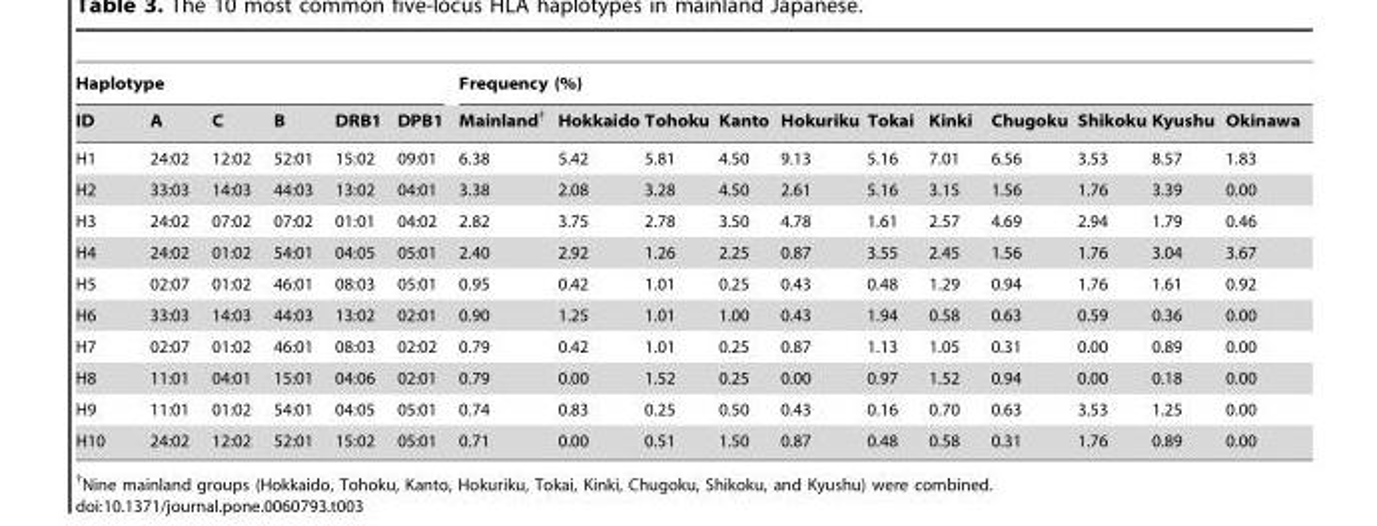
<table><thead><tr><td colspan="6">Haplotype</td><td colspan="11">Frequency (%)</td></tr><tr><td>ID</td><td>A</td><td>C</td><td>B</td><td>DRB1</td><td>DPB1</td><td>Mainland†</td><td>Hokkaido</td><td>Tohoku</td><td>Kanto</td><td>Hokuriku</td><td>Tokai</td><td>Kinki</td><td>Chugoku</td><td>Shikoku</td><td>Kyushu</td><td>Okinawa</td></tr></thead><tbody><tr><td>H1</td><td>24:02</td><td>12:02</td><td>52:01</td><td>15:02</td><td>09:01</td><td>6.38</td><td>5.42</td><td>5.81</td><td>4.50</td><td>9.13</td><td>5.16</td><td>7.01</td><td>6.56</td><td>3.53</td><td>8.57</td><td>1.83</td></tr><tr><td>H2</td><td>33:03</td><td>14:03</td><td>44:03</td><td>13:02</td><td>04:01</td><td>3.38</td><td>2.08</td><td>3.28</td><td>4.50</td><td>2.61</td><td>5.16</td><td>3.15</td><td>1.56</td><td>1.76</td><td>3.39</td><td>0.00</td></tr><tr><td>H3</td><td>24:02</td><td>07:02</td><td>07:02</td><td>01:01</td><td>04:02</td><td>2.82</td><td>3.75</td><td>2.78</td><td>3.50</td><td>4.78</td><td>1.61</td><td>2.57</td><td>4.69</td><td>2.94</td><td>1.79</td><td>0.46</td></tr><tr><td>H4</td><td>24:02</td><td>01:02</td><td>54:01</td><td>04:05</td><td>05:01</td><td>2.40</td><td>2.92</td><td>1.26</td><td>2.25</td><td>0.87</td><td>3.55</td><td>2.45</td><td>1.56</td><td>1.76</td><td>3.04</td><td>3.67</td></tr><tr><td>H5</td><td>02:07</td><td>01:02</td><td>46:01</td><td>08:03</td><td>05:01</td><td>0.95</td><td>0.42</td><td>1.01</td><td>0.25</td><td>0.43</td><td>0.48</td><td>1.29</td><td>0.94</td><td>1.76</td><td>1.61</td><td>0.92</td></tr><tr><td>H6</td><td>33:03</td><td>14:03</td><td>44:03</td><td>13:02</td><td>02:01</td><td>0.90</td><td>1.25</td><td>1.01</td><td>1.00</td><td>0.43</td><td>1.94</td><td>0.58</td><td>0.63</td><td>0.59</td><td>0.36</td><td>0.00</td></tr><tr><td>H7</td><td>02:07</td><td>01:02</td><td>46:01</td><td>08:03</td><td>02:02</td><td>0.79</td><td>0.42</td><td>1.01</td><td>0.25</td><td>0.87</td><td>1.13</td><td>1.05</td><td>0.31</td><td>0.00</td><td>0.89</td><td>0.00</td></tr><tr><td>H8</td><td>11:01</td><td>04:01</td><td>15:01</td><td>04:06</td><td>02:01</td><td>0.79</td><td>0.00</td><td>1.52</td><td>0.25</td><td>0.00</td><td>0.97</td><td>1.52</td><td>0.94</td><td>0.00</td><td>0.18</td><td>0.00</td></tr><tr><td>H9</td><td>11:01</td><td>01:02</td><td>54:01</td><td>04:05</td><td>05:01</td><td>0.74</td><td>0.83</td><td>0.25</td><td>0.50</td><td>0.43</td><td>0.16</td><td>0.70</td><td>0.63</td><td>3.53</td><td>1.25</td><td>0.00</td></tr><tr><td>H10</td><td>24:02</td><td>12:02</td><td>52:01</td><td>15:02</td><td>05:01</td><td>0.71</td><td>0.00</td><td>0.51</td><td>1.50</td><td>0.87</td><td>0.48</td><td>0.58</td><td>0.31</td><td>1.76</td><td>0.89</td><td>0.00</td></tr></tbody></table>